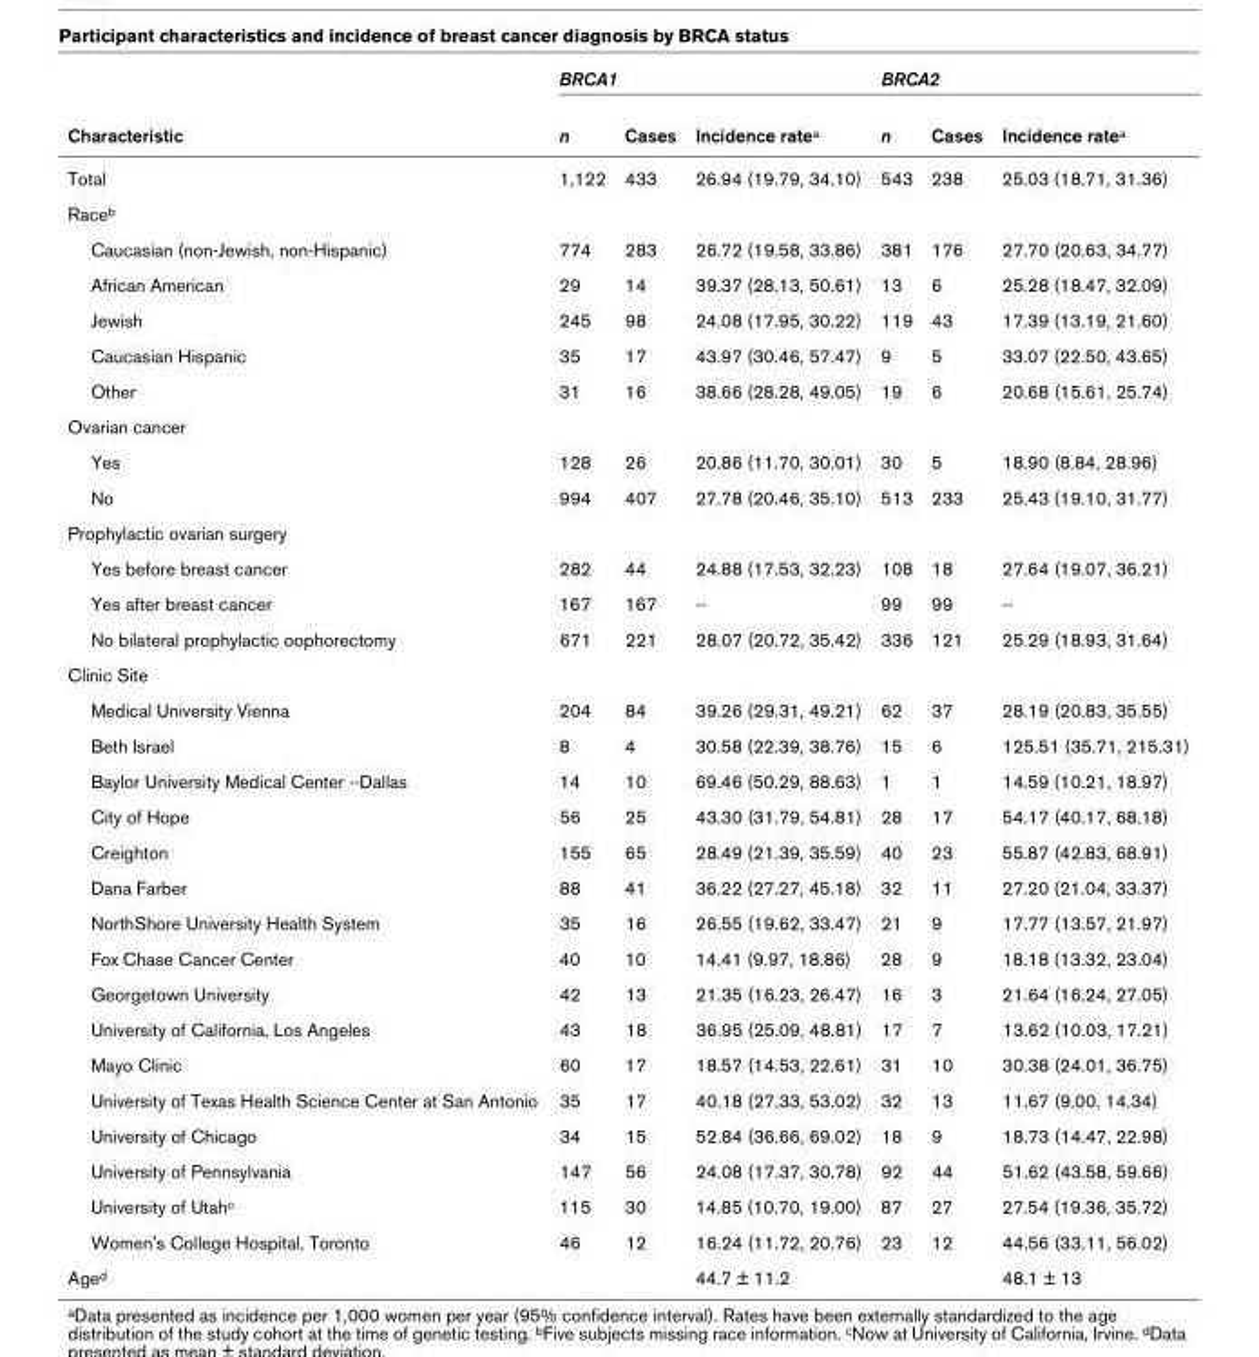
<table><thead><tr><td rowspan="2">Characteristic</td><td colspan="3">BRCA1</td><td colspan="3">BRCA2</td></tr><tr><td>n</td><td>Cases</td><td>Incidence rate<sup>a</sup></td><td>n</td><td>Cases</td><td>Incidence rate<sup>a</sup></td></tr></thead><tbody><tr><td>Total</td><td>1,122</td><td>433</td><td>26.94 (19.79, 34.10)</td><td>543</td><td>238</td><td>25.03 (18.71, 31.36)</td></tr><tr><td colspan="7">Race<sup>b</sup></td></tr><tr><td>Caucasian (non-Jewish, non-Hispanic)</td><td>774</td><td>283</td><td>26.72 (19.58, 33.86)</td><td>381</td><td>176</td><td>27.70 (20.63, 34.77)</td></tr><tr><td>African American</td><td>29</td><td>14</td><td>39.37 (28.13, 50.61)</td><td>13</td><td>6</td><td>25.28 (18.47, 32.09)</td></tr><tr><td>Jewish</td><td>245</td><td>98</td><td>24.08 (17.95, 30.22)</td><td>119</td><td>43</td><td>17.39 (13.19, 21.60)</td></tr><tr><td>Caucasian Hispanic</td><td>35</td><td>17</td><td>43.97 (30.46, 57.47)</td><td>9</td><td>5</td><td>33.07 (22.50, 43.65)</td></tr><tr><td>Other</td><td>31</td><td>16</td><td>38.66 (28.28, 49.05)</td><td>19</td><td>6</td><td>20.68 (15.61, 25.74)</td></tr><tr><td colspan="7">Ovarian cancer</td></tr><tr><td>Yes</td><td>128</td><td>26</td><td>20.86 (11.70, 30.01)</td><td>30</td><td>5</td><td>18.90 (8.84, 28.96)</td></tr><tr><td>No</td><td>994</td><td>407</td><td>27.78 (20.46, 35.10)</td><td>513</td><td>233</td><td>25.43 (19.10, 31.77)</td></tr><tr><td colspan="7">Prophylactic ovarian surgery</td></tr><tr><td>Yes before breast cancer</td><td>282</td><td>44</td><td>24.88 (17.53, 32.23)</td><td>108</td><td>18</td><td>27.64 (19.07, 36.21)</td></tr><tr><td>Yes after breast cancer</td><td>167</td><td>167</td><td>--</td><td>99</td><td>99</td><td>--</td></tr><tr><td>No bilateral prophylactic oophorectomy</td><td>671</td><td>221</td><td>28.07 (20.72, 35.42)</td><td>336</td><td>121</td><td>25.29 (18.93, 31.64)</td></tr><tr><td colspan="7">Clinic Site</td></tr><tr><td>Medical University Vienna</td><td>204</td><td>84</td><td>39.26 (29.31, 49.21)</td><td>62</td><td>37</td><td>28.19 (20.83, 35.55)</td></tr><tr><td>Beth Israel</td><td>8</td><td>4</td><td>30.58 (22.39, 38.76)</td><td>15</td><td>6</td><td>125.51 (35.71, 215.31)</td></tr><tr><td>Baylor University Medical Center --Dallas</td><td>14</td><td>10</td><td>69.46 (50.29, 88.63)</td><td>1</td><td>1</td><td>14.59 (10.21, 18.97)</td></tr><tr><td>City of Hope</td><td>56</td><td>25</td><td>43.30 (31.79, 54.81)</td><td>28</td><td>17</td><td>54.17 (40.17, 68.18)</td></tr><tr><td>Creighton</td><td>155</td><td>65</td><td>28.49 (21.39, 35.59)</td><td>40</td><td>23</td><td>55.87 (42.83, 68.91)</td></tr><tr><td>Dana Farber</td><td>88</td><td>41</td><td>36.22 (27.27, 45.18)</td><td>32</td><td>11</td><td>27.20 (21.04, 33.37)</td></tr><tr><td>NorthShore University Health System</td><td>35</td><td>16</td><td>26.55 (19.62, 33.47)</td><td>21</td><td>9</td><td>17.77 (13.57, 21.97)</td></tr><tr><td>Fox Chase Cancer Center</td><td>40</td><td>10</td><td>14.41 (9.97, 18.86)</td><td>28</td><td>9</td><td>18.18 (13.32, 23.04)</td></tr><tr><td>Georgetown University</td><td>42</td><td>13</td><td>21.35 (16.23, 26.47)</td><td>16</td><td>3</td><td>21.64 (16.24, 27.05)</td></tr><tr><td>University of California, Los Angeles</td><td>43</td><td>18</td><td>36.95 (25.09, 48.81)</td><td>17</td><td>7</td><td>13.62 (10.03, 17.21)</td></tr><tr><td>Mayo Clinic</td><td>60</td><td>17</td><td>18.57 (14.53, 22.61)</td><td>31</td><td>10</td><td>30.38 (24.01, 36.75)</td></tr><tr><td>University of Texas Health Science Center at San Antonio</td><td>35</td><td>17</td><td>40.18 (27.33, 53.02)</td><td>32</td><td>13</td><td>11.67 (9.00, 14.34)</td></tr><tr><td>University of Chicago</td><td>34</td><td>15</td><td>52.84 (36.66, 69.02)</td><td>18</td><td>9</td><td>18.73 (14.47, 22.98)</td></tr><tr><td>University of Pennsylvania</td><td>147</td><td>56</td><td>24.08 (17.37, 30.78)</td><td>92</td><td>44</td><td>51.62 (43.58, 59.66)</td></tr><tr><td>University of Utah<sup>c</sup></td><td>115</td><td>30</td><td>14.85 (10.70, 19.00)</td><td>87</td><td>27</td><td>27.54 (19.36, 35.72)</td></tr><tr><td>Women&#x27;s College Hospital, Toronto</td><td>46</td><td>12</td><td>16.24 (11.72, 20.76)</td><td>23</td><td>12</td><td>44.56 (33.11, 56.02)</td></tr><tr><td>Age<sup>d</sup></td><td></td><td></td><td>44.7 ± 11.2</td><td></td><td></td><td>48.1 ± 13</td></tr></tbody></table>